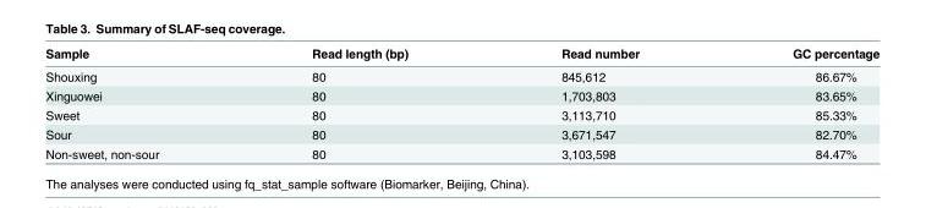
<table><thead><tr><td>Sample</td><td>Read length (bp)</td><td>Read number</td><td>GC percentage</td></tr></thead><tbody><tr><td>Shouxing</td><td>80</td><td>845,612</td><td>86.67%</td></tr><tr><td>Xinguowei</td><td>80</td><td>1,703,803</td><td>83.65%</td></tr><tr><td>Sweet</td><td>80</td><td>3,113,710</td><td>85.33%</td></tr><tr><td>Sour</td><td>80</td><td>3,671,547</td><td>82.70%</td></tr><tr><td>Non-sweet, non-sour</td><td>80</td><td>3,103,598</td><td>84.47%</td></tr></tbody></table>